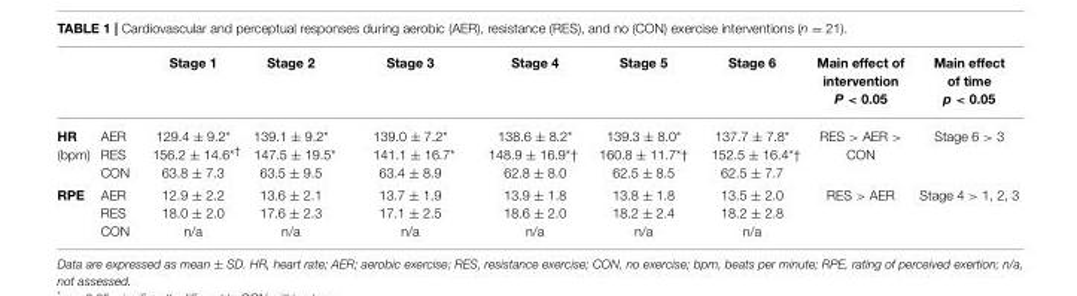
<table><thead><tr><td></td><td></td><td>Stage 1</td><td>Stage 2</td><td>Stage 3</td><td>Stage 4</td><td>Stage 5</td><td>Stage 6</td><td>Main effect of intervention P &lt; 0.05</td><td>Main effect of time p &lt; 0.05</td></tr></thead><tbody><tr><td>HR (bpm)</td><td>AER RES CON</td><td>129.4 ± 9.2* 156.2 ± 14.6<sup>*†</sup> 63.8 ± 7.3</td><td>139.1 ± 9.2* 147.5 ± 19.5* 63.5 ± 9.5</td><td>139.0 ± 7.2* 141.1 ± 16.7* 63.4 ± 8.9</td><td>138.6 ± 8.2* 148.9 ± 16.9<sup>*†</sup> 62.8 ± 8.0</td><td>139.3 ± 8.0* 160.8 ± 11.7<sup>*†</sup> 62.5 ± 8.5</td><td>137.7 ± 7.8* 152.5 ± 16.4<sup>*†</sup> 62.5 ± 7.7</td><td>RES &gt; AER &gt; CON</td><td>Stage 6 &gt; 3</td></tr><tr><td>RPE</td><td>AER RES CON</td><td>12.9 ± 2.2 18.0 ± 2.0 n/a</td><td>13.6 ± 2.1 17.6 ± 2.3 n/a</td><td>13.7 ± 1.9 17.1 ± 2.5 n/a</td><td>13.9 ± 1.8 18.6 ± 2.0 n/a</td><td>13.8 ± 1.8 18.2 ± 2.4 n/a</td><td>13.5 ± 2.0 18.2 ± 2.8 n/a</td><td>RES &gt; AER</td><td>Stage 4 &gt; 1, 2, 3</td></tr></tbody></table>